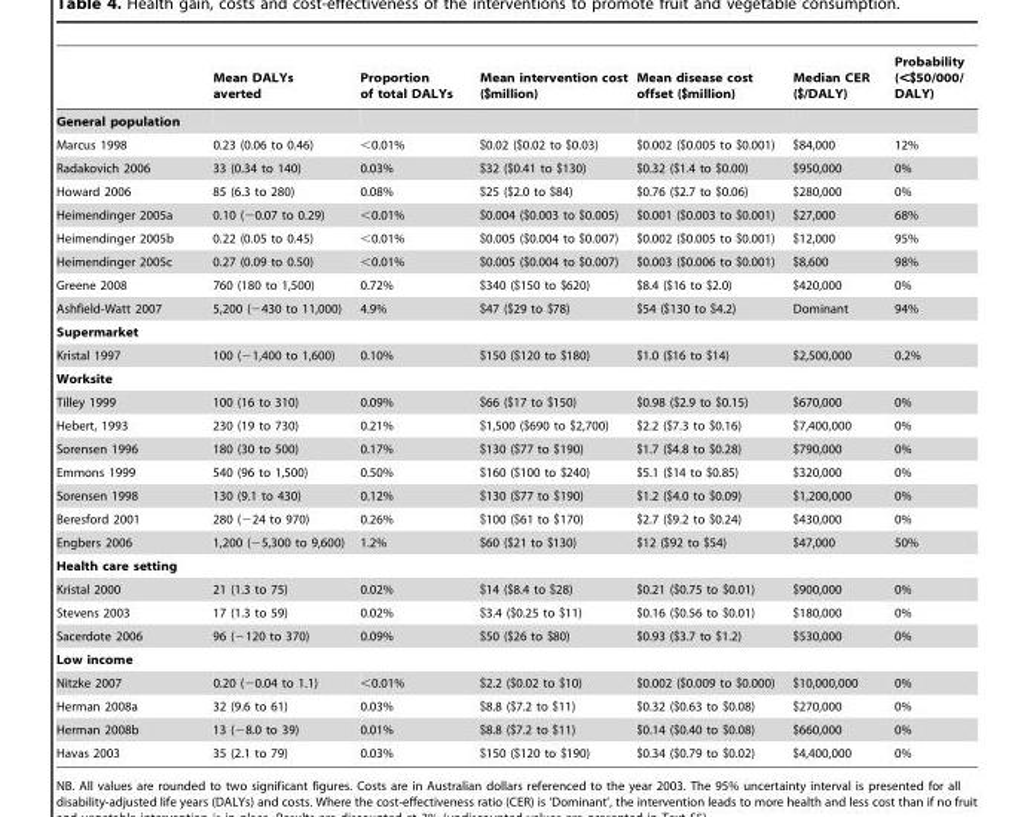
<table><thead><tr><td></td><td>Mean DALYs averted</td><td>Proportion of total DALYs</td><td>Mean intervention cost ($million)</td><td>Mean disease cost offset ($million)</td><td>Median CER ($/DALY)</td><td>Probability (&lt;$50/000/ DALY)</td></tr></thead><tbody><tr><td colspan="7">General population</td></tr><tr><td>Marcus 1998</td><td>0.23 (0.06 to 0.46)</td><td>&lt;0.01%</td><td>$0.02 ($0.02 to $0.03)</td><td>$0.002 ($0.005 to $0.001)</td><td>$84,000</td><td>12%</td></tr><tr><td>Radakovich 2006</td><td>33 (0.34 to 140)</td><td>0.03%</td><td>$32 ($0.41 to $130)</td><td>$0.32 ($1.4 to $0.00)</td><td>$950,000</td><td>0%</td></tr><tr><td>Howard 2006</td><td>85 (6.3 to 280)</td><td>0.08%</td><td>$25 ($2.0 to $84)</td><td>$0.76 ($2.7 to $0.06)</td><td>$280,000</td><td>0%</td></tr><tr><td>Heimendinger 2005a</td><td>0.10 (−0.07 to 0.29)</td><td>&lt;0.01%</td><td>$0.004 ($0.003 to $0.005)</td><td>$0.001 ($0.003 to $0.001)</td><td>$27,000</td><td>68%</td></tr><tr><td>Heimendinger 2005b</td><td>0.22 (0.05 to 0.45)</td><td>&lt;0.01%</td><td>$0.005 ($0.004 to $0.007)</td><td>$0.002 ($0.005 to $0.001)</td><td>$12,000</td><td>95%</td></tr><tr><td>Heimendinger 2005c</td><td>0.27 (0.09 to 0.50)</td><td>&lt;0.01%</td><td>$0.005 ($0.004 to $0.007)</td><td>$0.003 ($0.006 to $0.001)</td><td>$8,600</td><td>98%</td></tr><tr><td>Greene 2008</td><td>760 (180 to 1,500)</td><td>0.72%</td><td>$340 ($150 to $620)</td><td>$8.4 ($16 to $2.0)</td><td>$420,000</td><td>0%</td></tr><tr><td>Ashfield-Watt 2007</td><td>5,200 (−430 to 11,000)</td><td>4.9%</td><td>$47 ($29 to $78)</td><td>$54 ($130 to $4.2)</td><td>Dominant</td><td>94%</td></tr><tr><td colspan="7">Supermarket</td></tr><tr><td>Kristal 1997</td><td>100 (−1,400 to 1,600)</td><td>0.10%</td><td>$150 ($120 to $180)</td><td>$1.0 ($16 to $14)</td><td>$2,500,000</td><td>0.2%</td></tr><tr><td colspan="7">Worksite</td></tr><tr><td>Tilley 1999</td><td>100 (16 to 310)</td><td>0.09%</td><td>$66 ($17 to $150)</td><td>$0.98 ($2.9 to $0.15)</td><td>$670,000</td><td>0%</td></tr><tr><td>Hebert, 1993</td><td>230 (19 to 730)</td><td>0.21%</td><td>$1,500 ($690 to $2,700)</td><td>$2.2 ($7.3 to $0.16)</td><td>$7,400,000</td><td>0%</td></tr><tr><td>Sorensen 1996</td><td>180 (30 to 500)</td><td>0.17%</td><td>$130 ($77 to $190)</td><td>$1.7 ($4.8 to $0.28)</td><td>$790,000</td><td>0%</td></tr><tr><td>Emmons 1999</td><td>540 (96 to 1,500)</td><td>0.50%</td><td>$160 ($100 to $240)</td><td>$5.1 ($14 to $0.85)</td><td>$320,000</td><td>0%</td></tr><tr><td>Sorensen 1998</td><td>130 (9.1 to 430)</td><td>0.12%</td><td>$130 ($77 to $190)</td><td>$1.2 ($4.0 to $0.09)</td><td>$1,200,000</td><td>0%</td></tr><tr><td>Beresford 2001</td><td>280 (−24 to 970)</td><td>0.26%</td><td>$100 ($61 to $170)</td><td>$2.7 ($9.2 to $0.24)</td><td>$430,000</td><td>0%</td></tr><tr><td>Engbers 2006</td><td>1,200 (−5,300 to 9,600)</td><td>1.2%</td><td>$60 ($21 to $130)</td><td>$12 ($92 to $54)</td><td>$47,000</td><td>50%</td></tr><tr><td colspan="7">Health care setting</td></tr><tr><td>Kristal 2000</td><td>21 (1.3 to 75)</td><td>0.02%</td><td>$14 ($8.4 to $28)</td><td>$0.21 ($0.75 to $0.01)</td><td>$900,000</td><td>0%</td></tr><tr><td>Stevens 2003</td><td>17 (1.3 to 59)</td><td>0.02%</td><td>$3.4 ($0.25 to $11)</td><td>$0.16 ($0.56 to $0.01)</td><td>$180,000</td><td>0%</td></tr><tr><td>Sacerdote 2006</td><td>96 (−120 to 370)</td><td>0.09%</td><td>$50 ($26 to $80)</td><td>$0.93 ($3.7 to $1.2)</td><td>$530,000</td><td>0%</td></tr><tr><td colspan="7">Low income</td></tr><tr><td>Nitzke 2007</td><td>0.20 (−0.04 to 1.1)</td><td>&lt;0.01%</td><td>$2.2 ($0.02 to $10)</td><td>$0.002 ($0.009 to $0.000)</td><td>$10,000,000</td><td>0%</td></tr><tr><td>Herman 2008a</td><td>32 (9.6 to 61)</td><td>0.03%</td><td>$8.8 ($7.2 to $11)</td><td>$0.32 ($0.63 to $0.08)</td><td>$270,000</td><td>0%</td></tr><tr><td>Herman 2008b</td><td>13 (−8.0 to 39)</td><td>0.01%</td><td>$8.8 ($7.2 to $11)</td><td>$0.14 ($0.40 to $0.08)</td><td>$660,000</td><td>0%</td></tr><tr><td>Havas 2003</td><td>35 (2.1 to 79)</td><td>0.03%</td><td>$150 ($120 to $190)</td><td>$0.34 ($0.79 to $0.02)</td><td>$4,400,000</td><td>0%</td></tr></tbody></table>